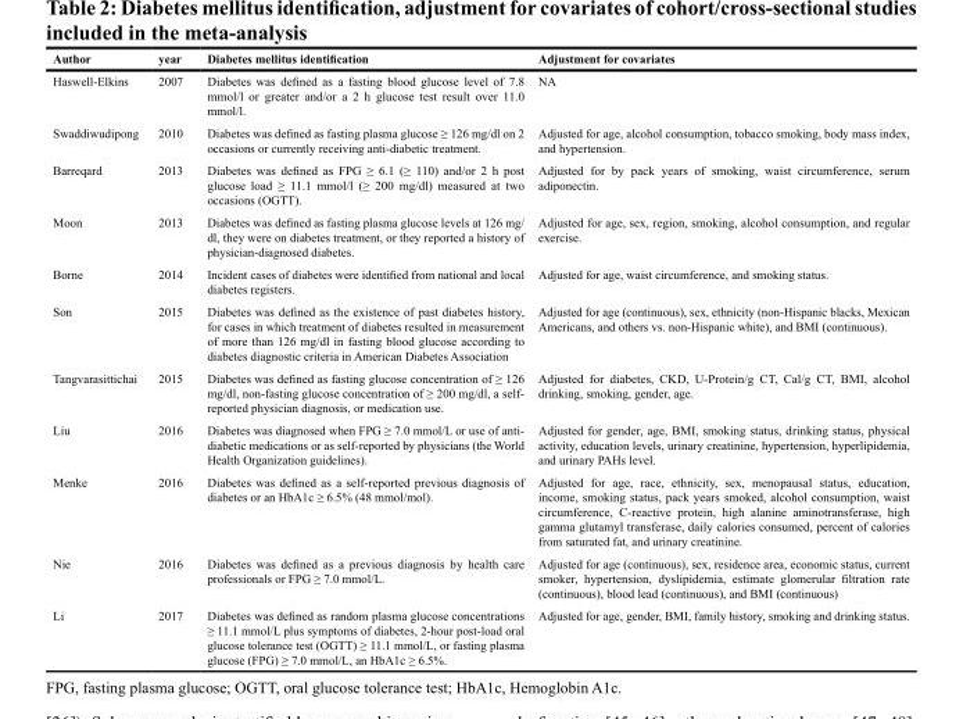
<table><thead><tr><td>Author</td><td>year</td><td>Diabetes mellitus identification</td><td>Adjustment for covariates</td></tr></thead><tbody><tr><td>Haswell-Elkins</td><td>2007</td><td>Diabetes was defined as a fasting blood glucose level of 7.8 mmol/l or greater and/or a 2 h glucose test result over 11.0 mmol/l.</td><td>NA</td></tr><tr><td>Swaddiwudipong</td><td>2010</td><td>Diabetes was defined as fasting plasma glucose ≥ 126 mg/dl on 2 occasions or currently receiving anti-diabetic treatment.</td><td>Adjusted for age, alcohol consumption, tobacco smoking, body mass index, and hypertension.</td></tr><tr><td>Barreqard</td><td>2013</td><td>Diabetes was defined as FPG ≥ 6.1 (≥ 110) and/or 2 h post glucose load ≥ 11.1 mmol/l (≥ 200 mg/dl) measured at two occasions (OGTT).</td><td>Adjusted for by pack years of smoking, waist circumference, serum adiponectin.</td></tr><tr><td>Moon</td><td>2013</td><td>Diabetes was defined as fasting plasma glucose levels at 126 mg/ dl, they were on diabetes treatment, or they reported a history of physician-diagnosed diabetes.</td><td>Adjusted for age, sex, region, smoking, alcohol consumption, and regular exercise.</td></tr><tr><td>Borne</td><td>2014</td><td>Incident cases of diabetes were identified from national and local diabetes registers.</td><td>Adjusted for age, waist circumference, and smoking status.</td></tr><tr><td>Son</td><td>2015</td><td>Diabetes was defined as the existence of past diabetes history, for cases in which treatment of diabetes resulted in measurement of more than 126 mg/dl in fasting blood glucose according to diabetes diagnostic criteria in American Diabetes Association</td><td>Adjusted for age (continuous), sex, ethnicity (non-Hispanic blacks, Mexican Americans, and others vs. non-Hispanic white), and BMI (continuous).</td></tr><tr><td>Tangvarasittichai</td><td>2015</td><td>Diabetes was defined as fasting glucose concentration of ≥ 126 mg/dl, non-fasting glucose concentration of ≥ 200 mg/dl, a self- reported physician diagnosis, or medication use.</td><td>Adjusted for diabetes, CKD, U-Protein/g CT, Cal/g CT, BMI, alcohol drinking, smoking, gender, age.</td></tr><tr><td>Liu</td><td>2016</td><td>Diabetes was diagnosed when FPG ≥ 7.0 mmol/L or use of anti- diabetic medications or as self-reported by physicians (the World Health Organization guidelines).</td><td>Adjusted for gender, age, BMI, smoking status, drinking status, physical activity, education levels, urinary creatinine, hypertension, hyperlipidemia, and urinary PAHs level.</td></tr><tr><td>Menke</td><td>2016</td><td>Diabetes was defined as a self-reported previous diagnosis of diabetes or an HbA1c ≥ 6.5% (48 mmol/mol).</td><td>Adjusted for age, race, ethnicity, sex, menopausal status, education, income, smoking status, pack years smoked, alcohol consumption, waist circumference, C-reactive protein, high alanine aminotransferase, high gamma glutamyl transferase, daily calories consumed, percent of calories from saturated fat, and urinary creatinine.</td></tr><tr><td>Nie</td><td>2016</td><td>Diabetes was defined as a previous diagnosis by health care professionals or FPG ≥ 7.0 mmol/L.</td><td>Adjusted for age (continuous), sex, residence area, economic status, current smoker, hypertension, dyslipidemia, estimate glomerular filtration rate (continuous), blood lead (continuous), and BMI (continuous)</td></tr><tr><td>Li</td><td>2017</td><td>Diabetes was defined as random plasma glucose concentrations ≥ 11.1 mmol/L plus symptoms of diabetes, 2-hour post-load oral glucose tolerance test (OGTT) ≥ 11.1 mmol/L, or fasting plasma glucose (FPG) ≥ 7.0 mmol/L, an HbA1c ≥ 6.5%.</td><td>Adjusted for age, gender, BMI, family history, smoking and drinking status.</td></tr></tbody></table>